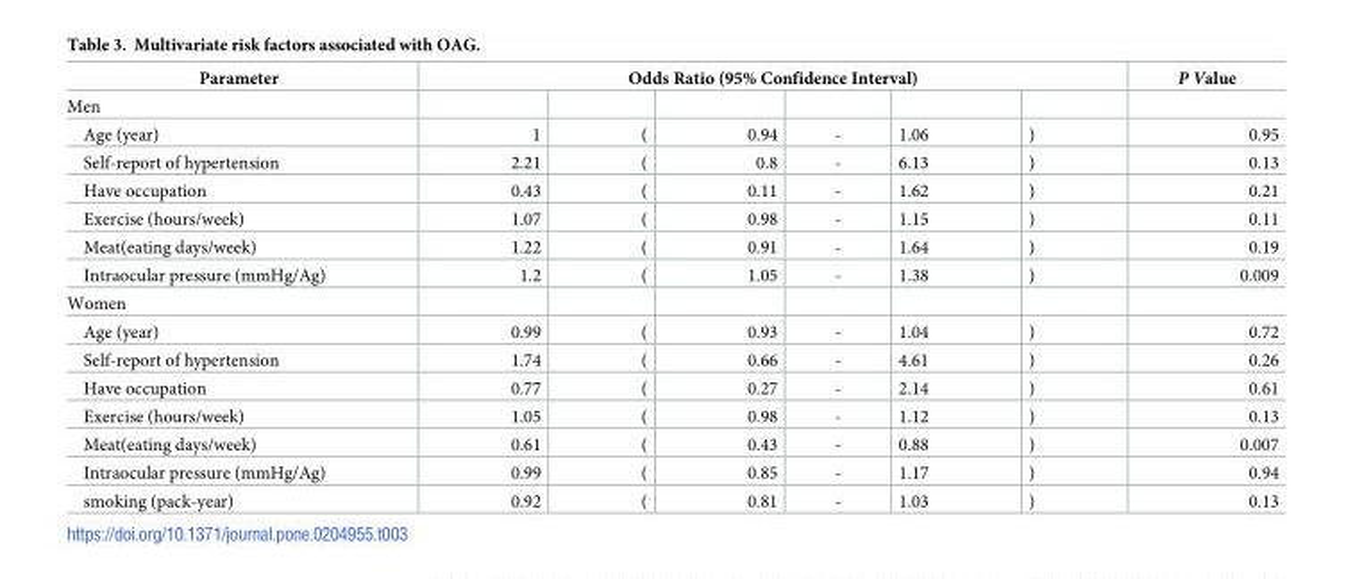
<table><thead><tr><td rowspan="2">Parameter Men</td><td colspan="6">Odds Ratio (95% Confidence Interval)</td><td rowspan="2">P Value</td></tr><tr><td></td><td></td><td></td><td></td><td></td><td></td></tr></thead><tbody><tr><td>Age (year)</td><td>1</td><td>(</td><td>0.94</td><td>-</td><td>1.06</td><td>)</td><td>0.95</td></tr><tr><td>Self-report of hypertension</td><td>2.21</td><td>(</td><td>0.8</td><td>-</td><td>6.13</td><td>)</td><td>0.13</td></tr><tr><td>Have occupation</td><td>0.43</td><td>(</td><td>0.11</td><td>-</td><td>1.62</td><td>)</td><td>0.21</td></tr><tr><td>Exercise (hours/week)</td><td>1.07</td><td>(</td><td>0.98</td><td>-</td><td>1.15</td><td>)</td><td>0.11</td></tr><tr><td>Meat(eating days/week)</td><td>1.22</td><td>(</td><td>0.91</td><td>-</td><td>1.64</td><td>)</td><td>0.19</td></tr><tr><td>Intraocular pressure (mmHg/Ag)</td><td>1.2</td><td>(</td><td>1.05</td><td>-</td><td>1.38</td><td>)</td><td>0.009</td></tr><tr><td colspan="8">Women</td></tr><tr><td>Age (year)</td><td>0.99</td><td>(</td><td>0.93</td><td>-</td><td>1.04</td><td>)</td><td>0.72</td></tr><tr><td>Self-report of hypertension</td><td>1.74</td><td>(</td><td>0.66</td><td>-</td><td>4.61</td><td>)</td><td>0.26</td></tr><tr><td>Have occupation</td><td>0.77</td><td>(</td><td>0.27</td><td>-</td><td>2.14</td><td>)</td><td>0.61</td></tr><tr><td>Exercise (hours/week)</td><td>1.05</td><td>(</td><td>0.98</td><td>-</td><td>1.12</td><td>)</td><td>0.13</td></tr><tr><td>Meat(eating days/week)</td><td>0.61</td><td>(</td><td>0.43</td><td>-</td><td>0.88</td><td>)</td><td>0.007</td></tr><tr><td>Intraocular pressure (mmHg/Ag)</td><td>0.99</td><td>(</td><td>0.85</td><td>-</td><td>1.17</td><td>)</td><td>0.94</td></tr><tr><td>smoking (pack-year)</td><td>0.92</td><td>(</td><td>0.81</td><td>-</td><td>1.03</td><td>)</td><td>0.13</td></tr></tbody></table>